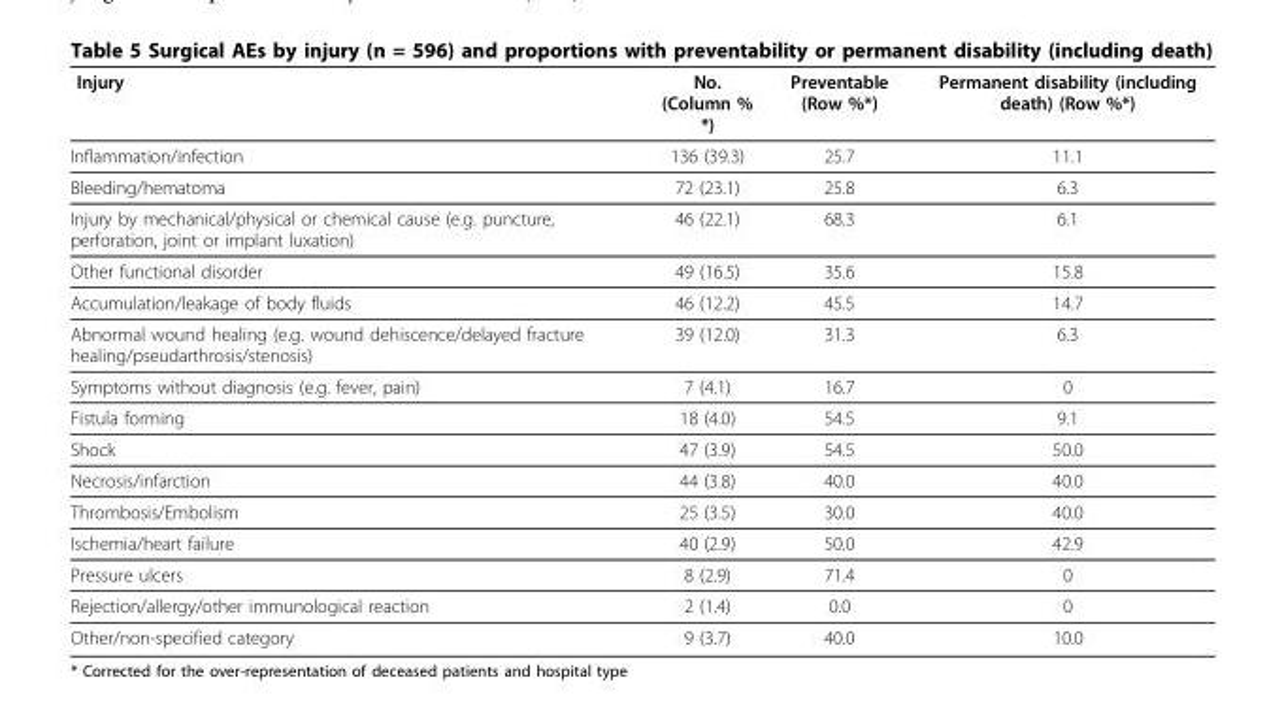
<table><thead><tr><td>Injury</td><td>No. (Column % *)</td><td>Preventable (Row %*)</td><td>Permanent disability (including death) (Row %*)</td></tr></thead><tbody><tr><td>Inflammation/infection</td><td>136 (39.3)</td><td>25.7</td><td>11.1</td></tr><tr><td>Bleeding/hematoma</td><td>72 (23.1)</td><td>25.8</td><td>6.3</td></tr><tr><td>Injury by mechanical/physical or chemical cause (e.g. puncture, perforation, joint or implant luxation)</td><td>46 (22.1)</td><td>68.3</td><td>6.1</td></tr><tr><td>Other functional disorder</td><td>49 (16.5)</td><td>35.6</td><td>15.8</td></tr><tr><td>Accumulation/leakage of body fluids</td><td>46 (12.2)</td><td>45.5</td><td>14.7</td></tr><tr><td>Abnormal wound healing (e.g. wound dehiscence/delayed fracture healing/pseudarthrosis/stenosis)</td><td>39 (12.0)</td><td>31.3</td><td>6.3</td></tr><tr><td>Symptoms without diagnosis (e.g. fever, pain)</td><td>7 (4.1)</td><td>16.7</td><td>0</td></tr><tr><td>Fistula forming</td><td>18 (4.0)</td><td>54.5</td><td>9.1</td></tr><tr><td>Shock</td><td>47 (3.9)</td><td>54.5</td><td>50.0</td></tr><tr><td>Necrosis/infarction</td><td>44 (3.8)</td><td>40.0</td><td>40.0</td></tr><tr><td>Thrombosis/Embolism</td><td>25 (3.5)</td><td>30.0</td><td>40.0</td></tr><tr><td>Ischemia/heart failure</td><td>40 (2.9)</td><td>50.0</td><td>42.9</td></tr><tr><td>Pressure ulcers</td><td>8 (2.9)</td><td>71.4</td><td>0</td></tr><tr><td>Rejection/allergy/other immunological reaction</td><td>2 (1.4)</td><td>0.0</td><td>0</td></tr><tr><td>Other/non-specified category</td><td>9 (3.7)</td><td>40.0</td><td>10.0</td></tr></tbody></table>